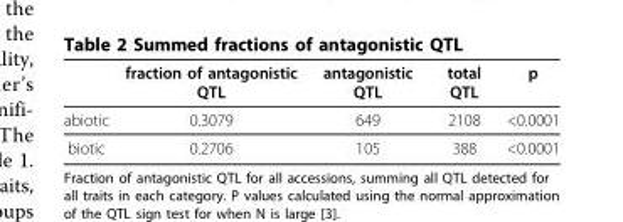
<table><thead><tr><td></td><td>fraction of antagonistic QTL</td><td>antagonistic QTL</td><td>total QTL</td><td>p</td></tr></thead><tbody><tr><td>abiotic</td><td>0.3079</td><td>649</td><td>2108</td><td>&lt;0.0001</td></tr><tr><td>biotic</td><td>0.2706</td><td>105</td><td>388</td><td>&lt;0.0001</td></tr></tbody></table>